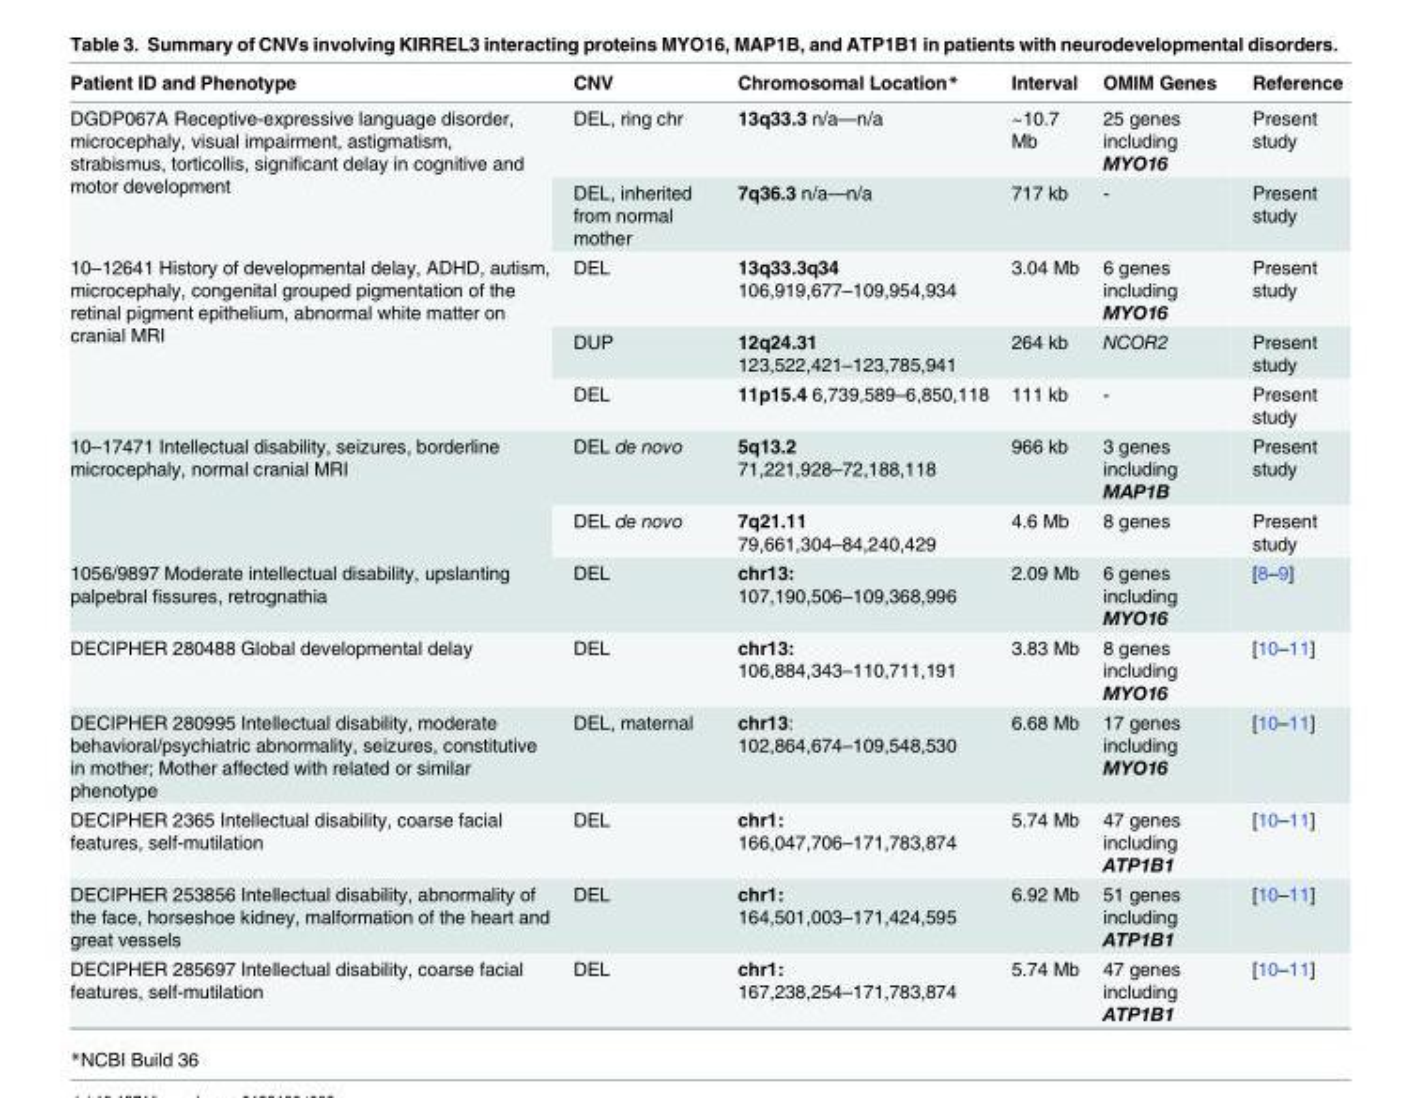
<table><thead><tr><td>Patient ID and Phenotype</td><td>CNV</td><td>Chromosomal Location*</td><td>Interval</td><td>OMIM Genes</td><td>Reference</td></tr></thead><tbody><tr><td rowspan="2">DGDP067A Receptive-expressive language disorder, microcephaly, visual impairment, astigmatism, strabismus, torticollis, significant delay in cognitive and motor development</td><td>DEL, ring chr</td><td>13q33.3 n/a—n/a</td><td>~10.7 Mb</td><td>25 genes including MYO16</td><td>Present study</td></tr><tr><td>DEL, inherited from normal mother</td><td>7q36.3 n/a—n/a</td><td>717 kb</td><td>-</td><td>Present study</td></tr><tr><td rowspan="3">10–12641 History of developmental delay, ADHD, autism, microcephaly, congenital grouped pigmentation of the retinal pigment epithelium, abnormal white matter on cranial MRI</td><td>DEL</td><td>13q33.3q34 106,919,677–109,954,934</td><td>3.04 Mb</td><td>6 genes including MYO16</td><td>Present study</td></tr><tr><td>DUP</td><td>12q24.31 123,522,421–123,785,941</td><td>264 kb</td><td>NCOR2</td><td>Present study</td></tr><tr><td>DEL</td><td>11p15.4 6,739,589–6,850,118</td><td>111 kb</td><td>-</td><td>Present study</td></tr><tr><td rowspan="2">10–17471 Intellectual disability, seizures, borderline microcephaly, normal cranial MRI</td><td>DEL de novo</td><td>5q13.2 71,221,928–72,188,118</td><td>966 kb</td><td>3 genes including MAP1B</td><td>Present study</td></tr><tr><td>DEL de novo</td><td>7q21.11 79,661,304–84,240,429</td><td>4.6 Mb</td><td>8 genes</td><td>Present study</td></tr><tr><td>1056/9897 Moderate intellectual disability, upslanting palpebral fissures, retrognathia</td><td>DEL</td><td>chr13: 107,190,506–109,368,996</td><td>2.09 Mb</td><td>6 genes including MYO16</td><td>[8–9]</td></tr><tr><td>DECIPHER 280488 Global developmental delay</td><td>DEL</td><td>chr13: 106,884,343–110,711,191</td><td>3.83 Mb</td><td>8 genes including MYO16</td><td>[10–11]</td></tr><tr><td>DECIPHER 280995 Intellectual disability, moderate behavioral/psychiatric abnormality, seizures, constitutive in mother; Mother affected with related or similar phenotype</td><td>DEL, maternal</td><td>chr13: 102,864,674–109,548,530</td><td>6.68 Mb</td><td>17 genes including MYO16</td><td>[10–11]</td></tr><tr><td>DECIPHER 2365 Intellectual disability, coarse facial features, self-mutilation</td><td>DEL</td><td>chr1: 166,047,706–171,783,874</td><td>5.74 Mb</td><td>47 genes including ATP1B1</td><td>[10–11]</td></tr><tr><td>DECIPHER 253856 Intellectual disability, abnormality of the face, horseshoe kidney, malformation of the heart and great vessels</td><td>DEL</td><td>chr1: 164,501,003–171,424,595</td><td>6.92 Mb</td><td>51 genes including ATP1B1</td><td>[10–11]</td></tr><tr><td>DECIPHER 285697 Intellectual disability, coarse facial features, self-mutilation</td><td>DEL</td><td>chr1: 167,238,254–171,783,874</td><td>5.74 Mb</td><td>47 genes including ATP1B1</td><td>[10–11]</td></tr></tbody></table>